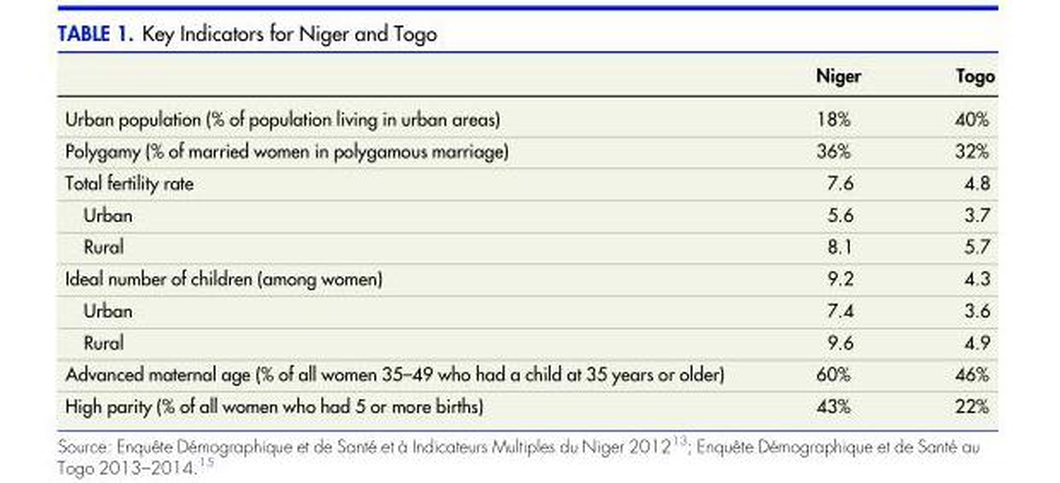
<table><thead><tr><td></td><td>Niger</td><td>Togo</td></tr></thead><tbody><tr><td>Urban population (% of population living in urban areas)</td><td>18%</td><td>40%</td></tr><tr><td>Polygamy (% of married women in polygamous marriage)</td><td>36%</td><td>32%</td></tr><tr><td>Total fertility rate</td><td>7.6</td><td>4.8</td></tr><tr><td>Urban</td><td>5.6</td><td>3.7</td></tr><tr><td>Rural</td><td>8.1</td><td>5.7</td></tr><tr><td>Ideal number of children (among women)</td><td>9.2</td><td>4.3</td></tr><tr><td>Urban</td><td>7.4</td><td>3.6</td></tr><tr><td>Rural</td><td>9.6</td><td>4.9</td></tr><tr><td>Advanced maternal age (% of all women 35–49 who had a child at 35 years or older)</td><td>60%</td><td>46%</td></tr><tr><td>High parity (% of all women who had 5 or more births)</td><td>43%</td><td>22%</td></tr></tbody></table>